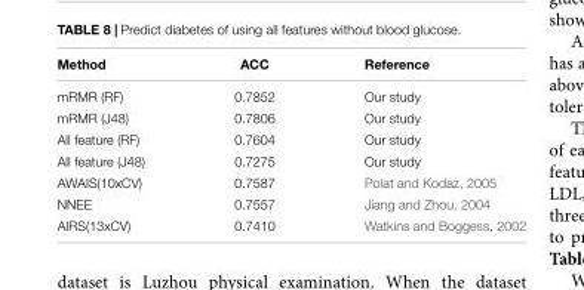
<table><thead><tr><td>Method</td><td>ACC</td><td>Reference</td></tr></thead><tbody><tr><td>mRMR (RF)</td><td>0.7852</td><td>Our study</td></tr><tr><td>mRMR (J48)</td><td>0.7806</td><td>Our study</td></tr><tr><td>All feature (RF)</td><td>0.7604</td><td>Our study</td></tr><tr><td>All feature (J48)</td><td>0.7275</td><td>Our study</td></tr><tr><td>AWAIS(10xCV)</td><td>0.7587</td><td>Polat and Kodaz, 2005</td></tr><tr><td>NNEE</td><td>0.7557</td><td>Jiang and Zhou, 2004</td></tr><tr><td>AIRS(13xCV)</td><td>0.7410</td><td>Watkins and Boggess, 2002</td></tr></tbody></table>